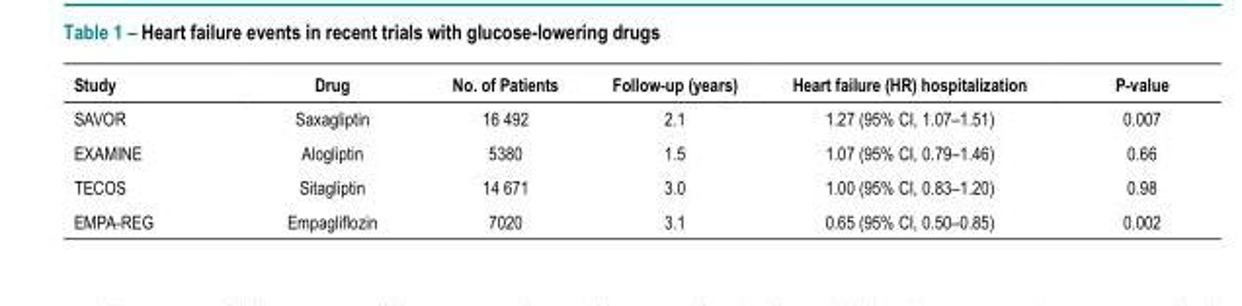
<table><thead><tr><td>Study</td><td>Drug</td><td>No. of Patients</td><td>Follow-up (years)</td><td>Heart failure (HR) hospitalization</td><td>P-value</td></tr></thead><tbody><tr><td>SAVOR</td><td>Saxagliptin</td><td>16 492</td><td>2.1</td><td>1.27 (95% CI, 1.07–1.51)</td><td>0.007</td></tr><tr><td>EXAMINE</td><td>Alogliptin</td><td>5380</td><td>1.5</td><td>1.07 (95% CI, 0.79–1.46)</td><td>0.66</td></tr><tr><td>TECOS</td><td>Sitagliptin</td><td>14 671</td><td>3.0</td><td>1.00 (95% CI, 0.83–1.20)</td><td>0.98</td></tr><tr><td>EMPA-REG</td><td>Empagliflozin</td><td>7020</td><td>3.1</td><td>0.65 (95% CI, 0.50–0.85)</td><td>0.002</td></tr></tbody></table>